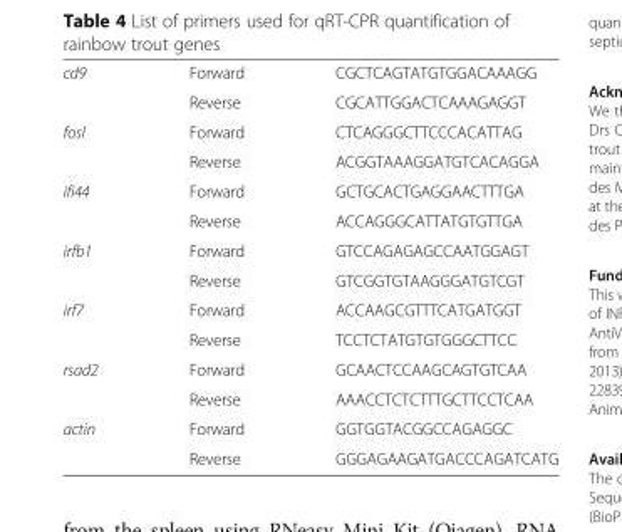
<table><tbody><tr><td rowspan="2">cd9</td><td>Forward</td><td>CGCTCAGTATGTGGACAAAGG</td></tr><tr><td>Reverse</td><td>CGCATTGGACTCAAAGAGGT</td></tr><tr><td rowspan="2">fosl</td><td>Forward</td><td>CTCAGGGCTTCCCACATTAG</td></tr><tr><td>Reverse</td><td>ACGGTAAAGGATGTCACAGGA</td></tr><tr><td rowspan="2">ifi44</td><td>Forward</td><td>GCTGCACTGAGGAACTTTGA</td></tr><tr><td>Reverse</td><td>ACCAGGGCATTATGTGTTGA</td></tr><tr><td rowspan="2">irfb1</td><td>Forward</td><td>GTCCAGAGAGCCAATGGAGT</td></tr><tr><td>Reverse</td><td>GTCGGTGTAAGGGATGTCGT</td></tr><tr><td rowspan="2">irf7</td><td>Forward</td><td>ACCAAGCGTTTCATGATGGT</td></tr><tr><td>Reverse</td><td>TCCTCTATGTGTGGGCTTCC</td></tr><tr><td rowspan="2">rsad2</td><td>Forward</td><td>GCAACTCCAAGCAGTGTCAA</td></tr><tr><td>Reverse</td><td>AAACCTCTCTTTGCTTCCTCAA</td></tr><tr><td rowspan="2">actin</td><td>Forward</td><td>GGTGGTACGGCCAGAGGC</td></tr><tr><td>Reverse</td><td>GGGAGAAGATGACCCAGATCATG</td></tr></tbody></table>